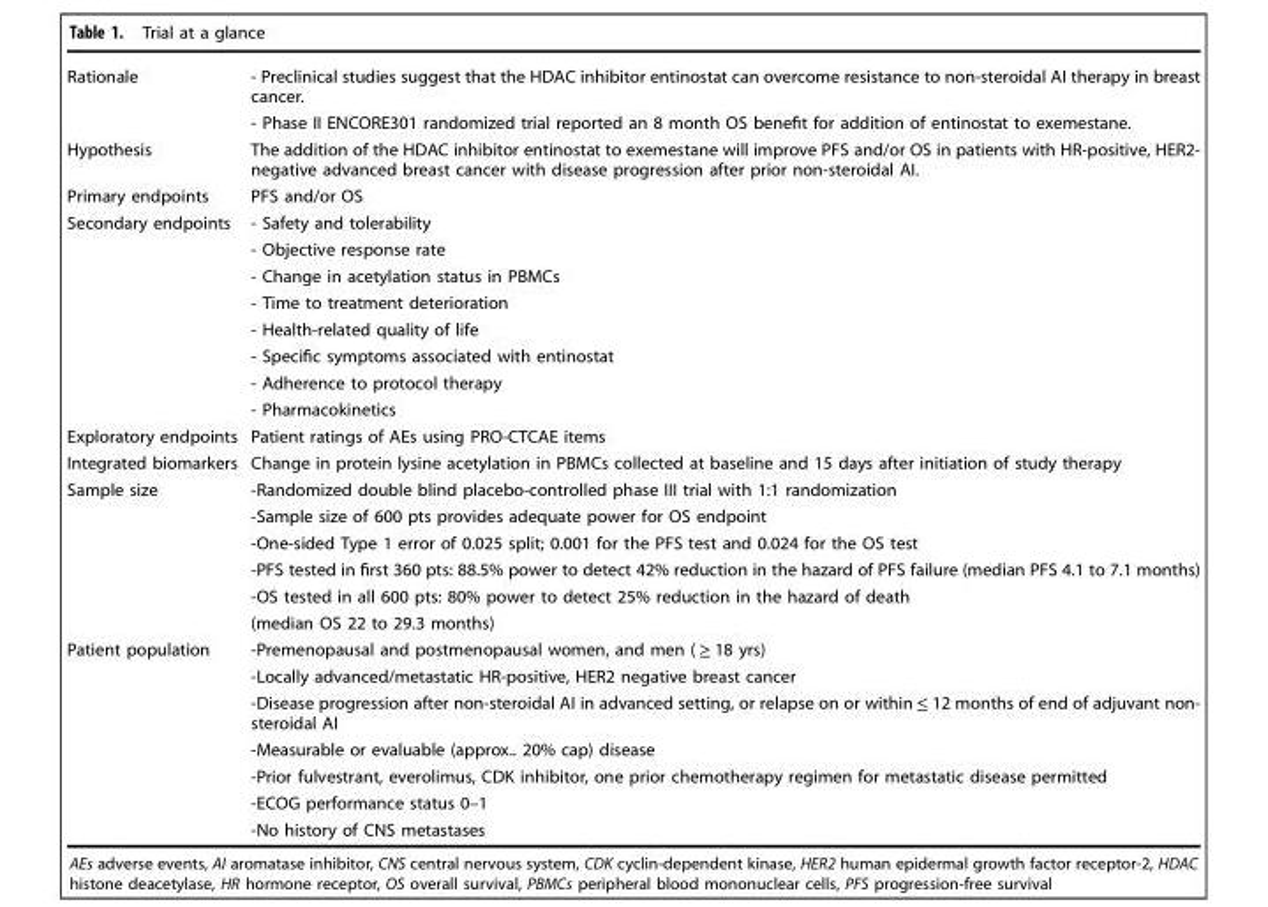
<table><tbody><tr><td rowspan="2">Rationale</td><td>- Preclinical studies suggest that the HDAC inhibitor entinostat can overcome resistance to non-steroidal AI therapy in breast cancer.</td></tr><tr><td>- Phase II ENCORE301 randomized trial reported an 8 month OS benefit for addition of entinostat to exemestane.</td></tr><tr><td>Hypothesis</td><td>The addition of the HDAC inhibitor entinostat to exemestane will improve PFS and/or OS in patients with HR-positive, HER2- negative advanced breast cancer with disease progression after prior non-steroidal AI.</td></tr><tr><td>Primary endpoints</td><td>PFS and/or OS</td></tr><tr><td rowspan="8">Secondary endpoints</td><td>- Safety and tolerability</td></tr><tr><td>- Objective response rate</td></tr><tr><td>- Change in acetylation status in PBMCs</td></tr><tr><td>- Time to treatment deterioration</td></tr><tr><td>- Health-related quality of life</td></tr><tr><td>- Specific symptoms associated with entinostat</td></tr><tr><td>- Adherence to protocol therapy</td></tr><tr><td>- Pharmacokinetics</td></tr><tr><td>Exploratory endpoints</td><td>Patient ratings of AEs using PRO-CTCAE items</td></tr><tr><td>Integrated biomarkers</td><td>Change in protein lysine acetylation in PBMCs collected at baseline and 15 days after initiation of study therapy</td></tr><tr><td rowspan="6">Sample size</td><td>-Randomized double blind placebo-controlled phase III trial with 1:1 randomization</td></tr><tr><td>-Sample size of 600 pts provides adequate power for OS endpoint</td></tr><tr><td>-One-sided Type 1 error of 0.025 split; 0.001 for the PFS test and 0.024 for the OS test</td></tr><tr><td>-PFS tested in first 360 pts: 88.5% power to detect 42% reduction in the hazard of PFS failure (median PFS 4.1 to 7.1 months)</td></tr><tr><td>-OS tested in all 600 pts: 80% power to detect 25% reduction in the hazard of death</td></tr><tr><td>(median OS 22 to 29.3 months)</td></tr><tr><td rowspan="7">Patient population</td><td>-Premenopausal and postmenopausal women, and men ( ≥ 18 yrs)</td></tr><tr><td>-Locally advanced/metastatic HR-positive, HER2 negative breast cancer</td></tr><tr><td>-Disease progression after non-steroidal AI in advanced setting, or relapse on or within ≤ 12 months of end of adjuvant non- steroidal AI</td></tr><tr><td>-Measurable or evaluable (approx.. 20% cap) disease</td></tr><tr><td>-Prior fulvestrant, everolimus, CDK inhibitor, one prior chemotherapy regimen for metastatic disease permitted</td></tr><tr><td>-ECOG performance status 0–1</td></tr><tr><td>-No history of CNS metastases</td></tr></tbody></table>